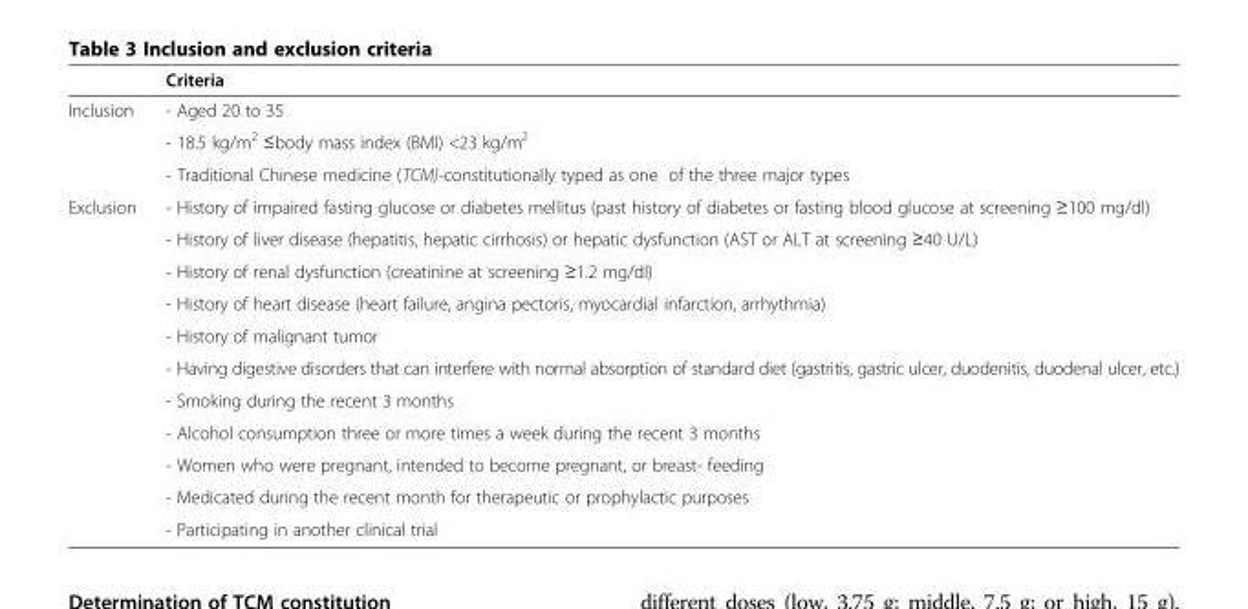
<table><thead><tr><td></td><td>Criteria</td></tr></thead><tbody><tr><td rowspan="3">Inclusion</td><td>- Aged 20 to 35</td></tr><tr><td>- 18.5 kg/m<sup>2</sup> ≤body mass index (BMI) &lt;23 kg/m<sup>2</sup></td></tr><tr><td>- Traditional Chinese medicine (TCM)-constitutionally typed as one of the three major types</td></tr><tr><td rowspan="11">Exclusion</td><td>- History of impaired fasting glucose or diabetes mellitus (past history of diabetes or fasting blood glucose at screening ≥100 mg/dl)</td></tr><tr><td>- History of liver disease (hepatitis, hepatic cirrhosis) or hepatic dysfunction (AST or ALT at screening ≥40 U/L)</td></tr><tr><td>- History of renal dysfunction (creatinine at screening ≥1.2 mg/dl)</td></tr><tr><td>- History of heart disease (heart failure, angina pectoris, myocardial infarction, arrhythmia)</td></tr><tr><td>- History of malignant tumor</td></tr><tr><td>- Having digestive disorders that can interfere with normal absorption of standard diet (gastritis, gastric ulcer, duodenitis, duodenal ulcer, etc.)</td></tr><tr><td>- Smoking during the recent 3 months</td></tr><tr><td>- Alcohol consumption three or more times a week during the recent 3 months</td></tr><tr><td>- Women who were pregnant, intended to become pregnant, or breast- feeding</td></tr><tr><td>- Medicated during the recent month for therapeutic or prophylactic purposes</td></tr><tr><td>- Participating in another clinical trial</td></tr></tbody></table>